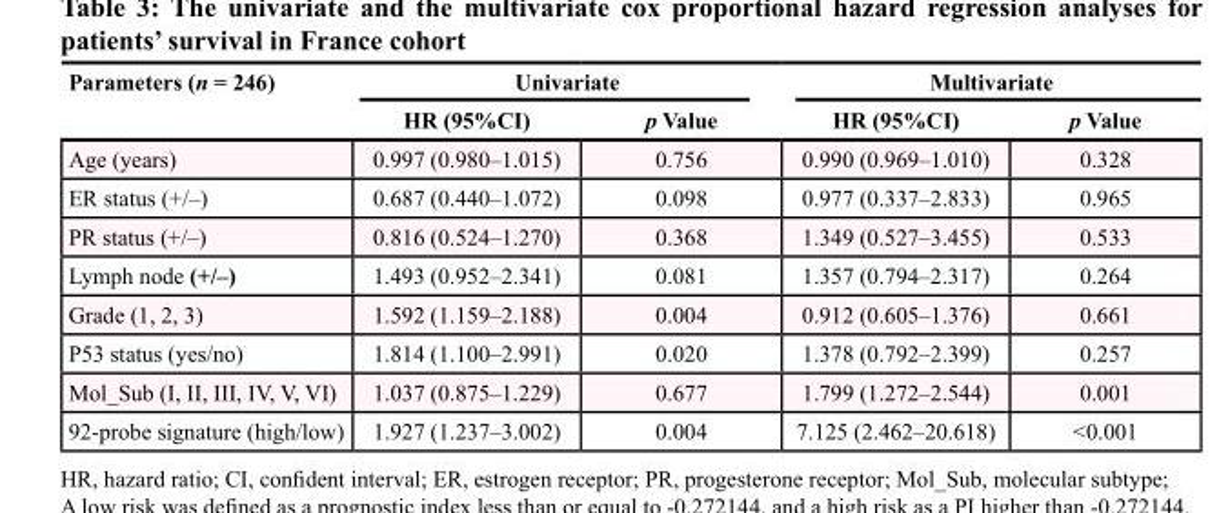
<table><thead><tr><td rowspan="2">Parameters (n = 246)</td><td colspan="2">Univariate</td><td colspan="2">Multivariate</td></tr><tr><td>HR (95%CI)</td><td>p Value</td><td>HR (95%CI)</td><td>p Value</td></tr></thead><tbody><tr><td>Age (years)</td><td>0.997 (0.980–1.015)</td><td>0.756</td><td>0.990 (0.969–1.010)</td><td>0.328</td></tr><tr><td>ER status (+/–)</td><td>0.687 (0.440–1.072)</td><td>0.098</td><td>0.977 (0.337–2.833)</td><td>0.965</td></tr><tr><td>PR status (+/–)</td><td>0.816 (0.524–1.270)</td><td>0.368</td><td>1.349 (0.527–3.455)</td><td>0.533</td></tr><tr><td>Lymph node (+/–)</td><td>1.493 (0.952–2.341)</td><td>0.081</td><td>1.357 (0.794–2.317)</td><td>0.264</td></tr><tr><td>Grade (1, 2, 3)</td><td>1.592 (1.159–2.188)</td><td>0.004</td><td>0.912 (0.605–1.376)</td><td>0.661</td></tr><tr><td>P53 status (yes/no)</td><td>1.814 (1.100–2.991)</td><td>0.020</td><td>1.378 (0.792–2.399)</td><td>0.257</td></tr><tr><td>Mol_Sub (I, II, III, IV, V, VI)</td><td>1.037 (0.875–1.229)</td><td>0.677</td><td>1.799 (1.272–2.544)</td><td>0.001</td></tr><tr><td>92-probe signature (high/low)</td><td>1.927 (1.237–3.002)</td><td>0.004</td><td>7.125 (2.462–20.618)</td><td>&lt;0.001</td></tr></tbody></table>